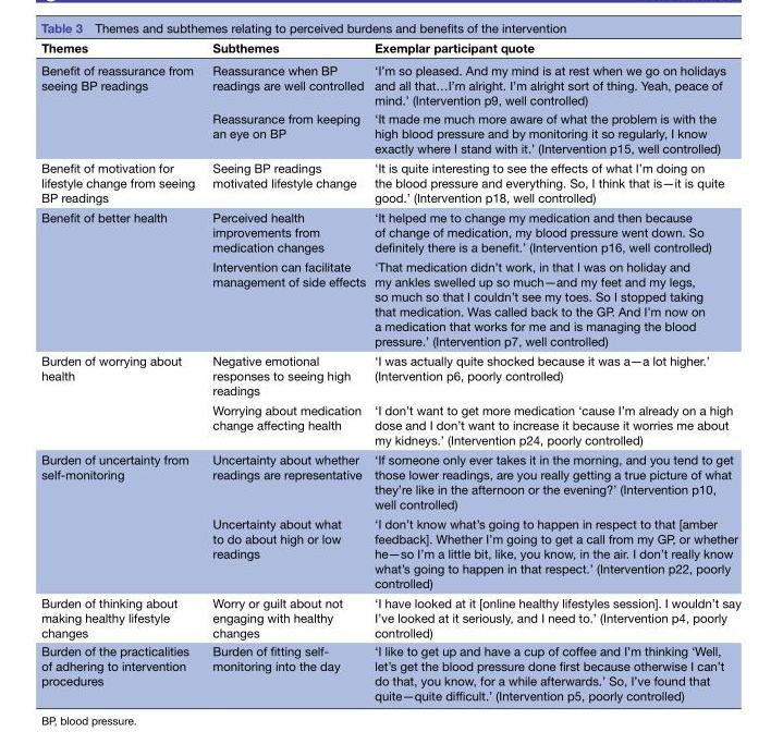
<table><thead><tr><td>Themes</td><td>Subthemes</td><td>Exemplar participant quote</td></tr></thead><tbody><tr><td rowspan="2">Benefit of reassurance from seeing BP readings</td><td>Reassurance when BP readings are well controlled</td><td>‘I’m so pleased. And my mind is at rest when we go on holidays and all that…I’m alright. I’m alright sort of thing. Yeah, peace of mind.’ (Intervention p9, well controlled)</td></tr><tr><td>Reassurance from keeping an eye on BP</td><td>‘It made me much more aware of what the problem is with the high blood pressure and by monitoring it so regularly, I know exactly where I stand with it.’ (Intervention p15, well controlled)</td></tr><tr><td>Benefit of motivation for lifestyle change from seeing BP readings</td><td>Seeing BP readings motivated lifestyle change</td><td>‘It is quite interesting to see the effects of what I’m doing on the blood pressure and everything. So, I think that is—it is quite good.’ (Intervention p18, well controlled)</td></tr><tr><td rowspan="2">Benefit of better health</td><td>Perceived health improvements from medication changes</td><td>‘It helped me to change my medication and then because of change of medication, my blood pressure went down. So definitely there is a benefit.’ (Intervention p16, well controlled)</td></tr><tr><td>Intervention can facilitate management of side effects</td><td>‘That medication didn’t work, in that I was on holiday and my ankles swelled up so much—and my feet and my legs, so much so that I couldn’t see my toes. So I stopped taking that medication. Was called back to the GP. And I’m now on a medication that works for me and is managing the blood pressure.’ (Intervention p7, well controlled)</td></tr><tr><td rowspan="2">Burden of worrying about health</td><td>Negative emotional responses to seeing high readings</td><td>‘I was actually quite shocked because it was a—a lot higher.’ (Intervention p6, poorly controlled)</td></tr><tr><td>Worrying about medication change affecting health</td><td>‘I don’t want to get more medication ‘cause I’m already on a high dose and I don’t want to increase it because it worries me about my kidneys.’ (Intervention p24, poorly controlled)</td></tr><tr><td rowspan="2">Burden of uncertainty from self-monitoring</td><td>Uncertainty about whether readings are representative</td><td>‘If someone only ever takes it in the morning, and you tend to get those lower readings, are you really getting a true picture of what they’re like in the afternoon or the evening?’ (Intervention p10, well controlled)</td></tr><tr><td>Uncertainty about what to do about high or low readings</td><td>‘I don’t know what’s going to happen in respect to that [amber feedback]. Whether I’m going to get a call from my GP, or whether he—so I’m a little bit, like, you know, in the air. I don’t really know what’s going to happen in that respect.’ (Intervention p22, poorly controlled)</td></tr><tr><td>Burden of thinking about making healthy lifestyle changes</td><td>Worry or guilt about not engaging with healthy changes</td><td>‘I have looked at it [online healthy lifestyles session]. I wouldn’t say I’ve looked at it seriously, and I need to.’ (Intervention p4, poorly controlled)</td></tr><tr><td>Burden of the practicalities of adhering to intervention procedures</td><td>Burden of fitting self- monitoring into the day</td><td>‘I like to get up and have a cup of coffee and I’m thinking ‘Well, let’s get the blood pressure done first because otherwise I can’t do that, you know, for a while afterwards.’ So, I’ve found that quite—quite difficult.’ (Intervention p5, poorly controlled)</td></tr></tbody></table>